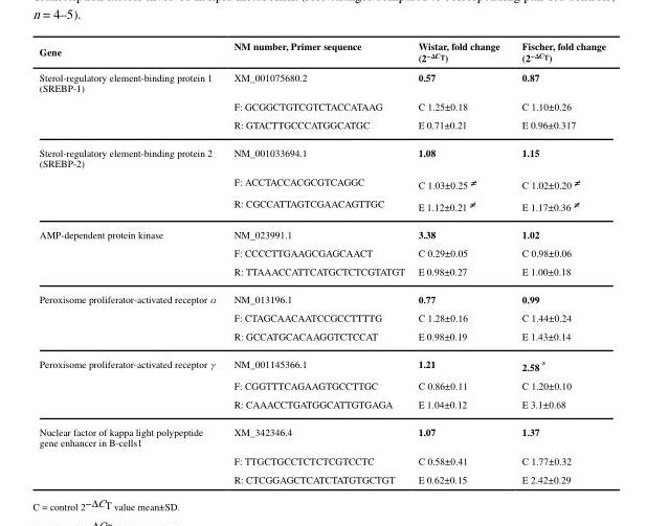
<table><thead><tr><td>Gene</td><td>NM number, Primer sequence</td><td>Wistar, fold change (2<sup>−ΔC<sub>T</sub></sup>)</td><td>Fischer, fold change (2<sup>−ΔC<sub>T</sub></sup>)</td></tr></thead><tbody><tr><td rowspan="3">Sterol-regulatory element-binding protein 1 (SREBP-1)</td><td>XM_001075680.2</td><td>0.57</td><td>0.87</td></tr><tr><td>F: GCGGCTGTCGTCTACCATAAG</td><td>C 1.25±0.18</td><td>C 1.10±0.26</td></tr><tr><td>R: GTACTTGCCCATGGCATGC</td><td>E 0.71±0.21</td><td>E 0.96±0.317</td></tr><tr><td rowspan="3">Sterol-regulatory element-binding protein 2 (SREBP-2)</td><td>NM_001033694.1</td><td>1.08</td><td>1.15</td></tr><tr><td>F: ACCTACCACGCGTCAGGC</td><td>C 1.03±0.25≠</td><td>C 1.02±0.20≠</td></tr><tr><td>R: CGCCATTAGTCGAACAGTTGC</td><td>E 1.12±0.21≠</td><td>E 1.17±0.36≠</td></tr><tr><td rowspan="3">AMP-dependent protein kinase</td><td>NM_023991.1</td><td>3.38</td><td>1.02</td></tr><tr><td>F: CCCCTTGAAGCGAGCAACT</td><td>C 0.29±0.05</td><td>C 0.98±0.06</td></tr><tr><td>R: TTAAACCATTCATGCTCTCGTATGT</td><td>E 0.98±0.27</td><td>E 1.00±0.18</td></tr><tr><td rowspan="3">Peroxisome proliferator-activated receptor α</td><td>NM_013196.1</td><td>0.77</td><td>0.99</td></tr><tr><td>F: CTAGCAACAATCCGCCTTTTG</td><td>C 1.28±0.16</td><td>C 1.44±0.24</td></tr><tr><td>R: GCCATGCACAAGGTCTCCAT</td><td>E 0.98±0.19</td><td>E 1.43±0.14</td></tr><tr><td rowspan="3">Peroxisome proliferator-activated receptor γ</td><td>NM_001145366.1</td><td>1.21</td><td>2.58*</td></tr><tr><td>F: CGGTTTCAGAAGTGCCTTGC</td><td>C 0.86±0.11</td><td>C 1.20±0.10</td></tr><tr><td>R: CAAACCTGATGGCATTGTGAGA</td><td>E 1.04±0.12</td><td>E 3.1±0.68</td></tr><tr><td rowspan="3">Nuclear factor of kappa light polypeptide gene enhancer in B-cells1</td><td>XM_342346.4</td><td>1.07</td><td>1.37</td></tr><tr><td>F: TTGCTGCCTCTCTCGTCCTC</td><td>C 0.58±0.41</td><td>C 1.77±0.32</td></tr><tr><td>R: CTCGGAGCTCATCTATGTGCTGT</td><td>E 0.62±0.15</td><td>E 2.42±0.29</td></tr></tbody></table>